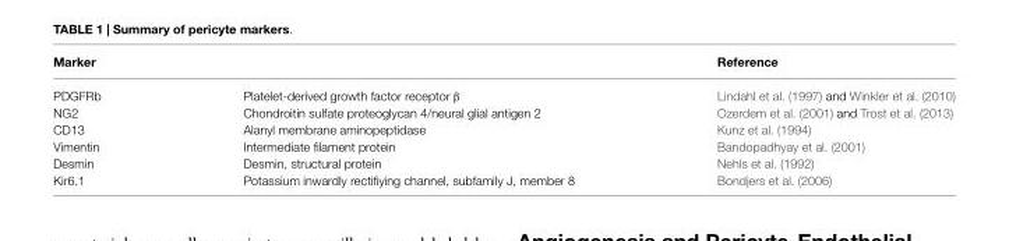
<table><thead><tr><td>Marker</td><td></td><td>Reference</td></tr></thead><tbody><tr><td>PDGFRb</td><td>Platelet-derived growth factor receptor β</td><td>Lindahl et al. (1997) and Winkler et al. (2010)</td></tr><tr><td>NG2</td><td>Chondroitin sulfate proteoglycan 4/neural glial antigen 2</td><td>Ozerdem et al. (2001) and Trost et al. (2013)</td></tr><tr><td>CD13</td><td>Alanyl membrane aminopeptidase</td><td>Kunz et al. (1994)</td></tr><tr><td>Vimentin</td><td>Intermediate filament protein</td><td>Bandopadhyay et al. (2001)</td></tr><tr><td>Desmin</td><td>Desmin, structural protein</td><td>Nehls et al. (1992)</td></tr><tr><td>Kir6.1</td><td>Potassium inwardly rectifiying channel, subfamily J, member 8</td><td>Bondjers et al. (2006)</td></tr></tbody></table>